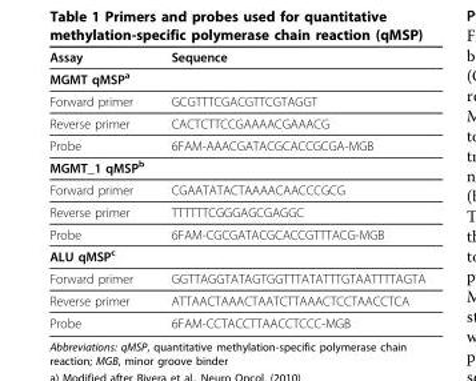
<table><thead><tr><td>Assay</td><td>Sequence</td></tr></thead><tbody><tr><td colspan="2">MGMT qMSP<sup>a</sup></td></tr><tr><td>Forward primer</td><td>GCGTTTCGACGTTCGTAGGT</td></tr><tr><td>Reverse primer</td><td>CACTCTTCCGAAAACGAAACG</td></tr><tr><td>Probe</td><td>6FAM-AAACGATACGCACCGCGA-MGB</td></tr><tr><td colspan="2">MGMT_1 qMSP<sup>b</sup></td></tr><tr><td>Forward primer</td><td>CGAATATACTAAAACAACCCGCG</td></tr><tr><td>Reverse primer</td><td>TTTTTTCGGGAGCGAGGC</td></tr><tr><td>Probe</td><td>6FAM-CGCGATACGCACCGTTTACG-MGB</td></tr><tr><td colspan="2">ALU qMSP<sup>c</sup></td></tr><tr><td>Forward primer</td><td>GGTTAGGTATAGTGGTTTATATTTGTAATTTTAGTA</td></tr><tr><td>Reverse primer</td><td>ATTAACTAAACTAATCTTAAACTCCTAACCTCA</td></tr><tr><td>Probe</td><td>6FAM-CCTACCTTAACCTCCC-MGB</td></tr></tbody></table>